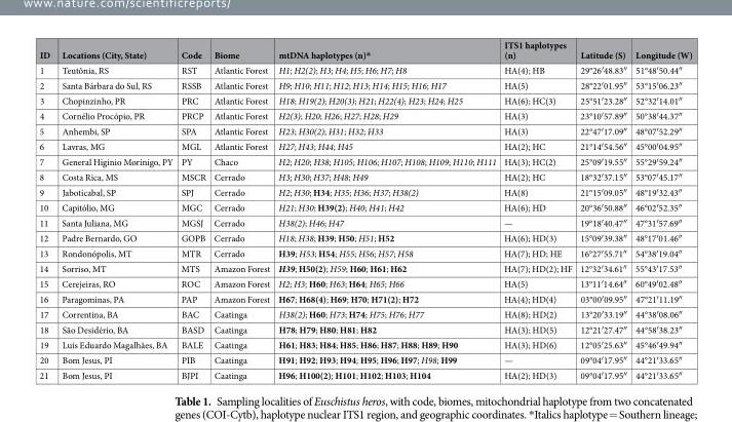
<table><thead><tr><td>ID</td><td>Locations (City, State)</td><td>Code</td><td>Biome</td><td>mtDNA haplotypes (n)*</td><td>ITS1 haplotypes (n)</td><td>Latitude (S)</td><td>Longitude (W)</td></tr></thead><tbody><tr><td>1</td><td>Teutônia, RS</td><td>RST</td><td>Atlantic Forest</td><td>H1; H2(2); H3; H4; H5; H6; H7; H8</td><td>HA(4); HB</td><td>29°26′48.83″</td><td>51°48′50.44″</td></tr><tr><td>2</td><td>Santa Bárbara do Sul, RS</td><td>RSSB</td><td>Atlantic Forest</td><td>H9; H10; H11; H12; H13; H14; H15; H16; H17</td><td>HA(5)</td><td>28°22′01.95″</td><td>53°15′06.23″</td></tr><tr><td>3</td><td>Chopinzinho, PR</td><td>PRC</td><td>Atlantic Forest</td><td>H18; H19(2); H20(3); H21; H22(4); H23; H24; H25</td><td>HA(6); HC(3)</td><td>25°51′23.28″</td><td>52°32′14.01″</td></tr><tr><td>4</td><td>Cornélio Procópio, PR</td><td>PRCP</td><td>Atlantic Forest</td><td>H2(3); H20; H26; H27; H28; H29</td><td>HA(3)</td><td>23°10′57.89″</td><td>50°38′44.37″</td></tr><tr><td>5</td><td>Anhembi, SP</td><td>SPA</td><td>Atlantic Forest</td><td>H23; H30(2); H31; H32; H33</td><td>HA(3)</td><td>22°47′17.09″</td><td>48°07′52.29″</td></tr><tr><td>6</td><td>Lavras, MG</td><td>MGL</td><td>Atlantic Forest</td><td>H27; H43; H44; H45</td><td>HA(2); HC</td><td>21°14′54.56″</td><td>45°00′04.95″</td></tr><tr><td>7</td><td>General Higinio Morínigo, PY</td><td>PY</td><td>Chaco</td><td>H2; H20; H38; H105; H106; H107; H108; H109; H110; H111</td><td>HA(3); HC(2)</td><td>25°09′19.55″</td><td>55°29′59.24″</td></tr><tr><td>8</td><td>Costa Rica, MS</td><td>MSCR</td><td>Cerrado</td><td>H3; H30; H37; H48; H49</td><td>HA(2); HC</td><td>18°32′37.15″</td><td>53°07′45.17″</td></tr><tr><td>9</td><td>Jaboticabal, SP</td><td>SPJ</td><td>Cerrado</td><td>H2; H30; H34; H35; H36; H37; H38(2)</td><td>HA(8)</td><td>21°15′09.05″</td><td>48°19′32.43″</td></tr><tr><td>10</td><td>Capitólio, MG</td><td>MGC</td><td>Cerrado</td><td>H21; H30; H39(2); H40; H41; H42</td><td>HA(6); HD</td><td>20°36′50.88″</td><td>46°02′52.35″</td></tr><tr><td>11</td><td>Santa Juliana, MG</td><td>MGSJ</td><td>Cerrado</td><td>H38(2); H46; H47</td><td>—</td><td>19°18′40.47″</td><td>47°31′57.69″</td></tr><tr><td>12</td><td>Padre Bernardo, GO</td><td>GOPB</td><td>Cerrado</td><td>H18; H38; H39; H50; H51; H52</td><td>HA(6); HD(3)</td><td>15°09′39.38″</td><td>48°17′01.46″</td></tr><tr><td>13</td><td>Rondonópolis, MT</td><td>MTR</td><td>Cerrado</td><td>H39; H53; H54; H55; H56; H57; H58</td><td>HA(7); HD; HE</td><td>16°27′55.71″</td><td>54°38′19.04″</td></tr><tr><td>14</td><td>Sorriso, MT</td><td>MTS</td><td>Amazon Forest</td><td>H39; H50(2); H59; H60; H61; H62</td><td>HA(7); HD(2); HF</td><td>12°32′34.61″</td><td>55°43′17.53″</td></tr><tr><td>15</td><td>Cerejeiras, RO</td><td>ROC</td><td>Amazon Forest</td><td>H2; H3; H60; H63; H64; H65; H66</td><td>HA(5)</td><td>13°11′14.64″</td><td>60°49′02.48″</td></tr><tr><td>16</td><td>Paragominas, PA</td><td>PAP</td><td>Amazon Forest</td><td>H67; H68(4); H69; H70; H71(2); H72</td><td>HA(4); HD(4)</td><td>03°00′09.95″</td><td>47°21′11.19″</td></tr><tr><td>17</td><td>Correntina, BA</td><td>BAC</td><td>Caatinga</td><td>H38(2); H60; H73; H74; H75; H76; H77</td><td>HA(8); HD(2)</td><td>13°20′33.19″</td><td>44°38′08.06″</td></tr><tr><td>18</td><td>São Desidério, BA</td><td>BASD</td><td>Caatinga</td><td>H78; H79; H80; H81; H82</td><td>HA(3); HD(5)</td><td>12°21′27.47″</td><td>44°58′38.23″</td></tr><tr><td>19</td><td>Luís Eduardo Magalhães, BA</td><td>BALE</td><td>Caatinga</td><td>H61; H83; H84; H85; H86; H87; H88; H89; H90</td><td>HA(3); HD(6)</td><td>12°05′25.63″</td><td>45°46′49.94″</td></tr><tr><td>20</td><td>Bom Jesus, PI</td><td>PIB</td><td>Caatinga</td><td>H91; H92; H93; H94; H95; H96; H97; H98; H99</td><td>—</td><td>09°04′17.95″</td><td>44°21′33.65″</td></tr><tr><td>21</td><td>Bom Jesus, PI</td><td>BJPI</td><td>Caatinga</td><td>H96; H100(2); H101; H102; H103; H104</td><td>HA(2); HD(3)</td><td>09°04′17.95″</td><td>44°21′33.65″</td></tr></tbody></table>